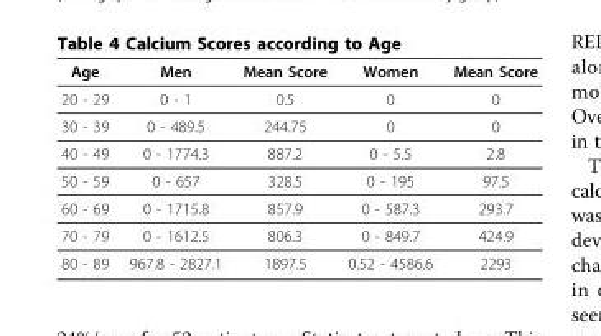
<table><thead><tr><td>Age</td><td>Men</td><td>Mean Score</td><td>Women</td><td>Mean Score</td></tr></thead><tbody><tr><td>20 - 29</td><td>0 - 1</td><td>0.5</td><td>0</td><td>0</td></tr><tr><td>30 - 39</td><td>0 - 489.5</td><td>244.75</td><td>0</td><td>0</td></tr><tr><td>40 - 49</td><td>0 - 1774.3</td><td>887.2</td><td>0 - 5.5</td><td>2.8</td></tr><tr><td>50 - 59</td><td>0 - 657</td><td>328.5</td><td>0 - 195</td><td>97.5</td></tr><tr><td>60 - 69</td><td>0 - 1715.8</td><td>857.9</td><td>0 - 587.3</td><td>293.7</td></tr><tr><td>70 - 79</td><td>0 - 1612.5</td><td>806.3</td><td>0 - 849.7</td><td>424.9</td></tr><tr><td>80 - 89</td><td>967.8 - 2827.1</td><td>1897.5</td><td>0.52 - 4586.6</td><td>2293</td></tr></tbody></table>